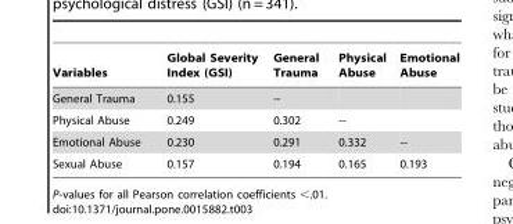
<table><thead><tr><td>Variables</td><td>Global Severity Index (GSI)</td><td>General Trauma</td><td>Physical Abuse</td><td>Emotional Abuse</td></tr></thead><tbody><tr><td>General Trauma</td><td>0.155</td><td>--</td><td></td><td></td></tr><tr><td>Physical Abuse</td><td>0.249</td><td>0.302</td><td>--</td><td></td></tr><tr><td>Emotional Abuse</td><td>0.230</td><td>0.291</td><td>0.332</td><td>--</td></tr><tr><td>Sexual Abuse</td><td>0.157</td><td>0.194</td><td>0.165</td><td>0.193</td></tr></tbody></table>